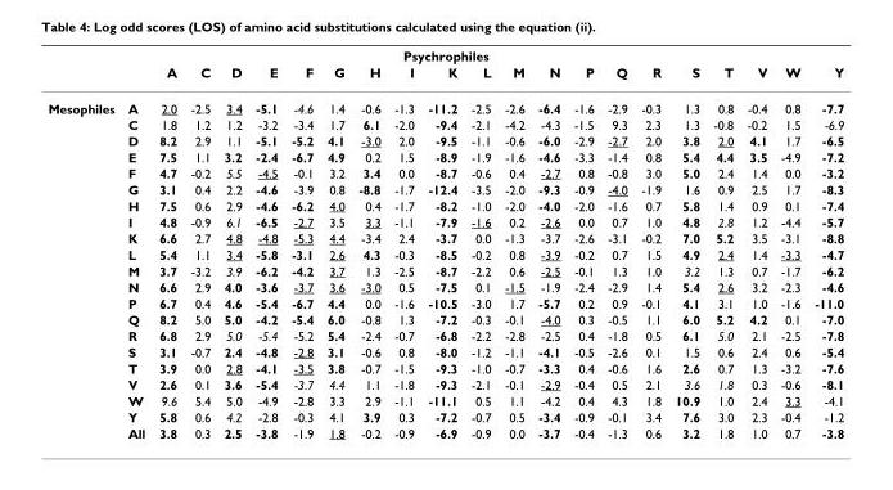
<table><thead><tr><td colspan="22">Psychrophiles</td></tr><tr><td></td><td></td><td>A</td><td>C</td><td>D</td><td>E</td><td>F</td><td>G</td><td>H</td><td>I</td><td>K</td><td>L</td><td>M</td><td>N</td><td>P</td><td>Q</td><td>R</td><td>S</td><td>T</td><td>V</td><td>W</td><td>Y</td></tr></thead><tbody><tr><td rowspan="21">Mesophiles</td><td>A</td><td>2.0</td><td>-2.5</td><td>3.4</td><td>-5.1</td><td>-4.6</td><td>1.4</td><td>-0.6</td><td>-1.3</td><td>-11.2</td><td>-2.5</td><td>-2.6</td><td>-6.4</td><td>-1.6</td><td>-2.9</td><td>-0.3</td><td>1.3</td><td>0.8</td><td>-0.4</td><td>0.8</td><td>-7.7</td></tr><tr><td>C</td><td>1.8</td><td>1.2</td><td>1.2</td><td>-3.2</td><td>-3.4</td><td>1.7</td><td>6.1</td><td>-2.0</td><td>-9.4</td><td>-2.1</td><td>-4.2</td><td>-4.3</td><td>-1.5</td><td>9.3</td><td>2.3</td><td>1.3</td><td>-0.8</td><td>-0.2</td><td>1.5</td><td>-6.9</td></tr><tr><td>D</td><td>8.2</td><td>2.9</td><td>1.1</td><td>-5.1</td><td>-5.2</td><td>4.1</td><td>-3.0</td><td>2.0</td><td>-9.5</td><td>-1.1</td><td>-0.6</td><td>-6.0</td><td>-2.9</td><td>-2.7</td><td>2.0</td><td>3.8</td><td>2.0</td><td>4.1</td><td>1.7</td><td>-6.5</td></tr><tr><td>E</td><td>7.5</td><td>1.1</td><td>3.2</td><td>-2.4</td><td>-6.7</td><td>4.9</td><td>0.2</td><td>1.5</td><td>-8.9</td><td>-1.9</td><td>-1.6</td><td>-4.6</td><td>-3.3</td><td>-1.4</td><td>0.8</td><td>5.4</td><td>4.4</td><td>3.5</td><td>-4.9</td><td>-7.2</td></tr><tr><td>F</td><td>4.7</td><td>-0.2</td><td>5.5</td><td>-4.5</td><td>-0.1</td><td>3.2</td><td>3.4</td><td>0.0</td><td>-8.7</td><td>-0.6</td><td>0.4</td><td>-2.7</td><td>0.8</td><td>-0.8</td><td>3.0</td><td>5.0</td><td>2.4</td><td>1.4</td><td>0.0</td><td>-3.2</td></tr><tr><td>G</td><td>3.1</td><td>0.4</td><td>2.2</td><td>-4.6</td><td>-3.9</td><td>0.8</td><td>-8.8</td><td>-1.7</td><td>-12.4</td><td>-3.5</td><td>-2.0</td><td>-9.3</td><td>-0.9</td><td>-4.0</td><td>-1.9</td><td>1.6</td><td>0.9</td><td>2.5</td><td>1.7</td><td>-8.3</td></tr><tr><td>H</td><td>7.5</td><td>0.6</td><td>2.9</td><td>-4.6</td><td>-6.2</td><td>4.0</td><td>0.4</td><td>-1.7</td><td>-8.2</td><td>-1.0</td><td>-2.0</td><td>-4.0</td><td>-2.0</td><td>-1.6</td><td>0.7</td><td>5.8</td><td>1.4</td><td>0.9</td><td>0.1</td><td>-7.4</td></tr><tr><td>I</td><td>4.8</td><td>-0.9</td><td>6.1</td><td>-6.5</td><td>-2.7</td><td>3.5</td><td>3.3</td><td>-1.1</td><td>-7.9</td><td>-1.6</td><td>0.2</td><td>-2.6</td><td>0.0</td><td>0.7</td><td>1.0</td><td>4.8</td><td>2.8</td><td>1.2</td><td>-4.4</td><td>-5.7</td></tr><tr><td>K</td><td>6.6</td><td>2.7</td><td>4.8</td><td>-4.8</td><td>-5.3</td><td>4.4</td><td>-3.4</td><td>2.4</td><td>-3.7</td><td>0.0</td><td>-1.3</td><td>-3.7</td><td>-2.6</td><td>-3.1</td><td>-0.2</td><td>7.0</td><td>5.2</td><td>3.5</td><td>-3.1</td><td>-8.8</td></tr><tr><td>L</td><td>5.4</td><td>1.1</td><td>3.4</td><td>-5.8</td><td>-3.1</td><td>2.6</td><td>4.3</td><td>-0.3</td><td>-8.5</td><td>-0.2</td><td>0.8</td><td>-3.9</td><td>-0.2</td><td>0.7</td><td>1.5</td><td>4.9</td><td>2.4</td><td>1.4</td><td>-3.3</td><td>-4.7</td></tr><tr><td>M</td><td>3.7</td><td>-3.2</td><td>3.9</td><td>-6.2</td><td>-4.2</td><td>3.7</td><td>1.3</td><td>-2.5</td><td>-8.7</td><td>-2.2</td><td>0.6</td><td>-2.5</td><td>-0.1</td><td>1.3</td><td>1.0</td><td>3.2</td><td>1.3</td><td>0.7</td><td>-1.7</td><td>-6.2</td></tr><tr><td>N</td><td>6.6</td><td>2.9</td><td>4.0</td><td>-3.6</td><td>-3.7</td><td>3.6</td><td>-3.0</td><td>0.5</td><td>-7.5</td><td>0.1</td><td>-1.5</td><td>-1.9</td><td>-2.4</td><td>-2.9</td><td>1.4</td><td>5.4</td><td>2.6</td><td>3.2</td><td>-2.3</td><td>-4.6</td></tr><tr><td>P</td><td>6.7</td><td>0.4</td><td>4.6</td><td>-5.4</td><td>-6.7</td><td>4.4</td><td>0.0</td><td>-1.6</td><td>-10.5</td><td>-3.0</td><td>1.7</td><td>-5.7</td><td>0.2</td><td>0.9</td><td>-0.1</td><td>4.1</td><td>3.1</td><td>1.0</td><td>-1.6</td><td>-11.0</td></tr><tr><td>Q</td><td>8.2</td><td>5.0</td><td>5.0</td><td>-4.2</td><td>-5.4</td><td>6.0</td><td>-0.8</td><td>1.3</td><td>-7.2</td><td>-0.3</td><td>-0.1</td><td>-4.0</td><td>0.3</td><td>-0.5</td><td>1.1</td><td>6.0</td><td>5.2</td><td>4.2</td><td>0.1</td><td>-7.0</td></tr><tr><td>R</td><td>6.8</td><td>2.9</td><td>5.0</td><td>-5.4</td><td>-5.2</td><td>5.4</td><td>-2.4</td><td>-0.7</td><td>-6.8</td><td>-2.2</td><td>-2.8</td><td>-2.5</td><td>0.4</td><td>-1.8</td><td>0.5</td><td>6.1</td><td>5.0</td><td>2.1</td><td>-2.5</td><td>-7.8</td></tr><tr><td>S</td><td>3.1</td><td>-0.7</td><td>2.4</td><td>-4.8</td><td>-2.8</td><td>3.1</td><td>-0.6</td><td>0.8</td><td>-8.0</td><td>-1.2</td><td>-1.1</td><td>-4.1</td><td>-0.5</td><td>-2.6</td><td>0.1</td><td>1.5</td><td>0.6</td><td>2.4</td><td>0.6</td><td>-5.4</td></tr><tr><td>T</td><td>3.9</td><td>0.0</td><td>2.8</td><td>-4.1</td><td>-3.5</td><td>3.8</td><td>-0.7</td><td>-1.5</td><td>-9.3</td><td>-1.0</td><td>-0.7</td><td>-3.3</td><td>0.4</td><td>-0.6</td><td>1.6</td><td>2.6</td><td>0.7</td><td>1.3</td><td>-3.2</td><td>-7.6</td></tr><tr><td>V</td><td>2.6</td><td>0.1</td><td>3.6</td><td>-5.4</td><td>-3.7</td><td>4.4</td><td>1.1</td><td>-1.8</td><td>-9.3</td><td>-2.1</td><td>-0.1</td><td>-2.9</td><td>-0.4</td><td>0.5</td><td>2.1</td><td>3.6</td><td>1.8</td><td>0.3</td><td>-0.6</td><td>-8.1</td></tr><tr><td>W</td><td>9.6</td><td>5.4</td><td>5.0</td><td>-4.9</td><td>-2.8</td><td>3.3</td><td>2.9</td><td>-1.1</td><td>-11.1</td><td>0.5</td><td>1.1</td><td>-4.2</td><td>0.4</td><td>4.3</td><td>1.8</td><td>10.9</td><td>1.0</td><td>2.4</td><td>3.3</td><td>-4.1</td></tr><tr><td>Y</td><td>5.8</td><td>0.6</td><td>4.2</td><td>-2.8</td><td>-0.3</td><td>4.1</td><td>3.9</td><td>0.3</td><td>-7.2</td><td>-0.7</td><td>0.5</td><td>-3.4</td><td>-0.9</td><td>-0.1</td><td>3.4</td><td>7.6</td><td>3.0</td><td>2.3</td><td>-0.4</td><td>-1.2</td></tr><tr><td>All</td><td>3.8</td><td>0.3</td><td>2.5</td><td>-3.8</td><td>-1.9</td><td>1.8</td><td>-0.2</td><td>-0.9</td><td>-6.9</td><td>-0.9</td><td>0.0</td><td>-3.7</td><td>-0.4</td><td>-1.3</td><td>0.6</td><td>3.2</td><td>1.8</td><td>1.0</td><td>0.7</td><td>-3.8</td></tr></tbody></table>